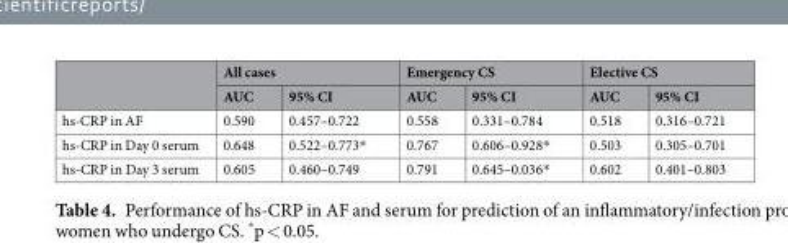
<table><thead><tr><td rowspan="2"></td><td colspan="2">All cases</td><td colspan="2">Emergency CS</td><td colspan="2">Elective CS</td></tr><tr><td>AUC</td><td>95% CI</td><td>AUC</td><td>95% CI</td><td>AUC</td><td>95% CI</td></tr></thead><tbody><tr><td>hs-CRP in AF</td><td>0.590</td><td>0.457–0.722</td><td>0.558</td><td>0.331–0.784</td><td>0.518</td><td>0.316–0.721</td></tr><tr><td>hs-CRP in Day 0 serum</td><td>0.648</td><td>0.522–0.773*</td><td>0.767</td><td>0.606–0.928*</td><td>0.503</td><td>0.305–0.701</td></tr><tr><td>hs-CRP in Day 3 serum</td><td>0.605</td><td>0.460–0.749</td><td>0.791</td><td>0.645–0.036*</td><td>0.602</td><td>0.401–0.803</td></tr></tbody></table>